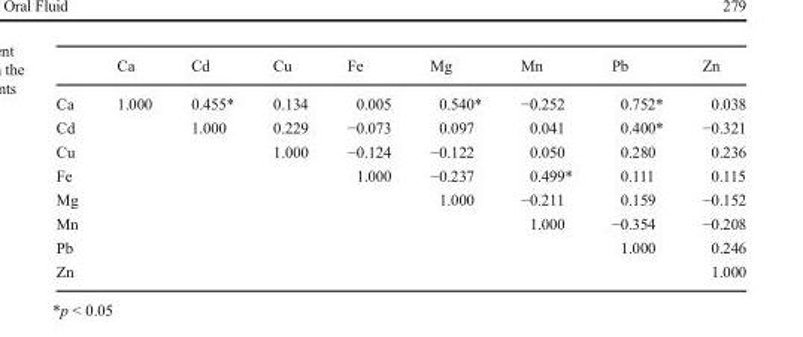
<table><thead><tr><td></td><td>Ca</td><td>Cd</td><td>Cu</td><td>Fe</td><td>Mg</td><td>Mn</td><td>Pb</td><td>Zn</td></tr></thead><tbody><tr><td>Ca</td><td>1.000</td><td>0.455*</td><td>0.134</td><td>0.005</td><td>0.540*</td><td>−0.252</td><td>0.752*</td><td>0.038</td></tr><tr><td>Cd</td><td></td><td>1.000</td><td>0.229</td><td>−0.073</td><td>0.097</td><td>0.041</td><td>0.400*</td><td>−0.321</td></tr><tr><td>Cu</td><td></td><td></td><td>1.000</td><td>−0.124</td><td>−0.122</td><td>0.050</td><td>0.280</td><td>0.236</td></tr><tr><td>Fe</td><td></td><td></td><td></td><td>1.000</td><td>−0.237</td><td>0.499*</td><td>0.111</td><td>0.115</td></tr><tr><td>Mg</td><td></td><td></td><td></td><td></td><td>1.000</td><td>−0.211</td><td>0.159</td><td>−0.152</td></tr><tr><td>Mn</td><td></td><td></td><td></td><td></td><td></td><td>1.000</td><td>−0.354</td><td>−0.208</td></tr><tr><td>Pb</td><td></td><td></td><td></td><td></td><td></td><td></td><td>1.000</td><td>0.246</td></tr><tr><td>Zn</td><td></td><td></td><td></td><td></td><td></td><td></td><td></td><td>1.000</td></tr></tbody></table>